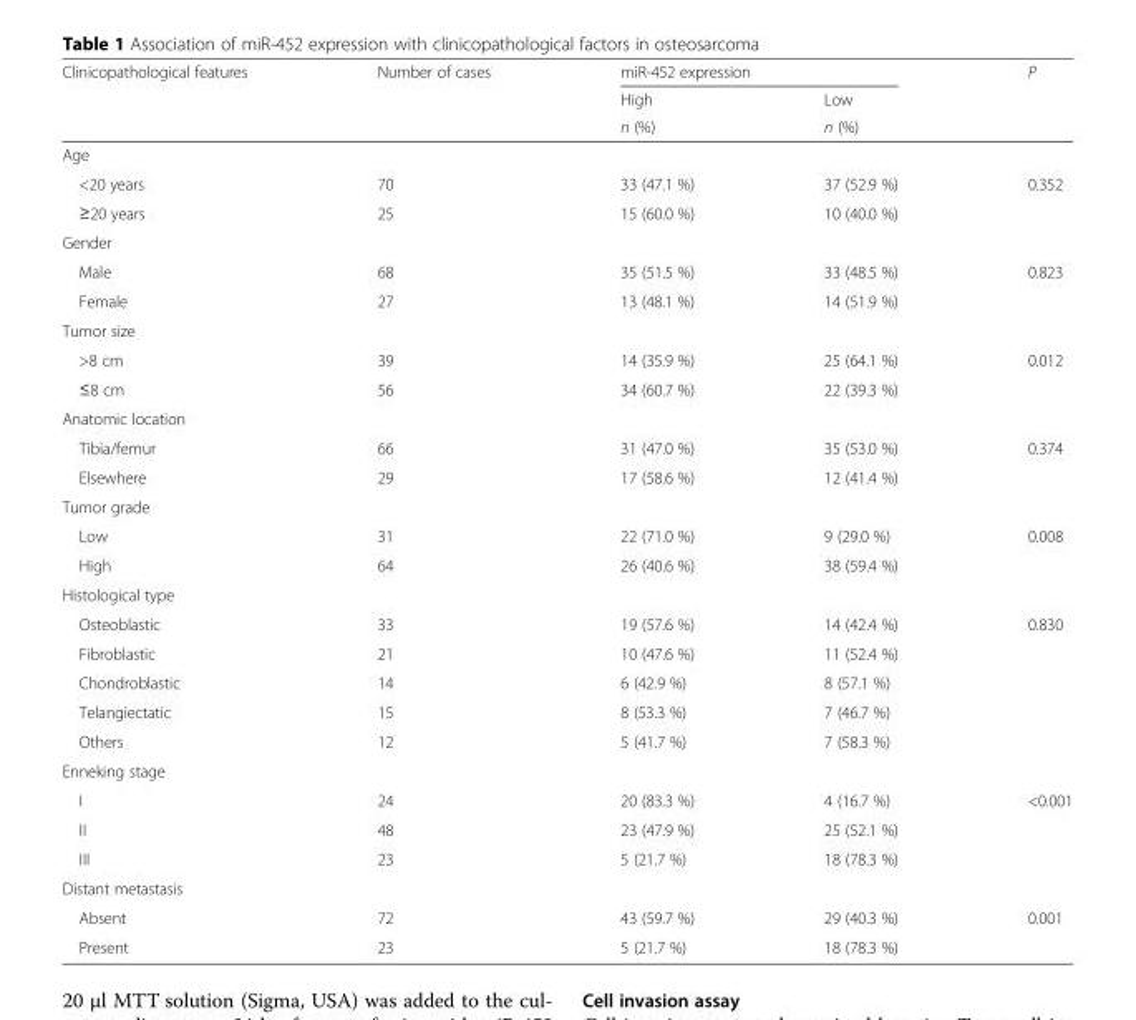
<table><thead><tr><td rowspan="3">Clinicopathological features</td><td rowspan="3">Number of cases</td><td colspan="2">miR-452 expression</td><td rowspan="3">P</td></tr><tr><td rowspan="2">High n (%)</td><td rowspan="2">Low n (%)</td></tr><tr></tr></thead><tbody><tr><td colspan="5">Age</td></tr><tr><td>&lt;20 years</td><td>70</td><td>33 (47.1 %)</td><td>37 (52.9 %)</td><td>0.352</td></tr><tr><td>≥20 years</td><td>25</td><td>15 (60.0 %)</td><td>10 (40.0 %)</td><td></td></tr><tr><td colspan="5">Gender</td></tr><tr><td>Male</td><td>68</td><td>35 (51.5 %)</td><td>33 (48.5 %)</td><td>0.823</td></tr><tr><td>Female</td><td>27</td><td>13 (48.1 %)</td><td>14 (51.9 %)</td><td></td></tr><tr><td colspan="5">Tumor size</td></tr><tr><td>&gt;8 cm</td><td>39</td><td>14 (35.9 %)</td><td>25 (64.1 %)</td><td>0.012</td></tr><tr><td>≤8 cm</td><td>56</td><td>34 (60.7 %)</td><td>22 (39.3 %)</td><td></td></tr><tr><td colspan="5">Anatomic location</td></tr><tr><td>Tibia/femur</td><td>66</td><td>31 (47.0 %)</td><td>35 (53.0 %)</td><td>0.374</td></tr><tr><td>Elsewhere</td><td>29</td><td>17 (58.6 %)</td><td>12 (41.4 %)</td><td></td></tr><tr><td colspan="5">Tumor grade</td></tr><tr><td>Low</td><td>31</td><td>22 (71.0 %)</td><td>9 (29.0 %)</td><td>0.008</td></tr><tr><td>High</td><td>64</td><td>26 (40.6 %)</td><td>38 (59.4 %)</td><td></td></tr><tr><td colspan="5">Histological type</td></tr><tr><td>Osteoblastic</td><td>33</td><td>19 (57.6 %)</td><td>14 (42.4 %)</td><td>0.830</td></tr><tr><td>Fibroblastic</td><td>21</td><td>10 (47.6 %)</td><td>11 (52.4 %)</td><td></td></tr><tr><td>Chondroblastic</td><td>14</td><td>6 (42.9 %)</td><td>8 (57.1 %)</td><td></td></tr><tr><td>Telangiectatic</td><td>15</td><td>8 (53.3 %)</td><td>7 (46.7 %)</td><td></td></tr><tr><td>Others</td><td>12</td><td>5 (41.7 %)</td><td>7 (58.3 %)</td><td></td></tr><tr><td colspan="5">Enneking stage</td></tr><tr><td>I</td><td>24</td><td>20 (83.3 %)</td><td>4 (16.7 %)</td><td>&lt;0.001</td></tr><tr><td>II</td><td>48</td><td>23 (47.9 %)</td><td>25 (52.1 %)</td><td></td></tr><tr><td>III</td><td>23</td><td>5 (21.7 %)</td><td>18 (78.3 %)</td><td></td></tr><tr><td colspan="5">Distant metastasis</td></tr><tr><td>Absent</td><td>72</td><td>43 (59.7 %)</td><td>29 (40.3 %)</td><td>0.001</td></tr><tr><td>Present</td><td>23</td><td>5 (21.7 %)</td><td>18 (78.3 %)</td><td></td></tr></tbody></table>